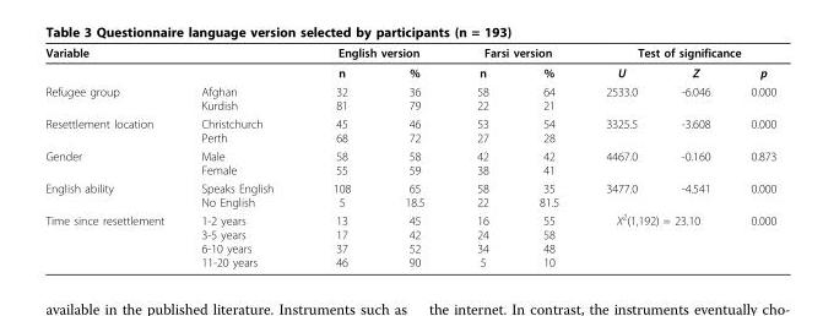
<table><thead><tr><td rowspan="2">Variable</td><td rowspan="2"></td><td colspan="2">English version</td><td colspan="2">Farsi version</td><td colspan="3">Test of significance</td></tr><tr><td>n</td><td>%</td><td>n</td><td>%</td><td>U</td><td>Z</td><td>p</td></tr></thead><tbody><tr><td>Refugee group</td><td>Afghan Kurdish</td><td>32 81</td><td>36 79</td><td>58 22</td><td>64 21</td><td>2533.0</td><td>-6.046</td><td>0.000</td></tr><tr><td>Resettlement location</td><td>Christchurch Perth</td><td>45 68</td><td>46 72</td><td>53 27</td><td>54 28</td><td>3325.5</td><td>-3.608</td><td>0.000</td></tr><tr><td>Gender</td><td>Male Female</td><td>58 55</td><td>58 59</td><td>42 38</td><td>42 41</td><td>4467.0</td><td>-0.160</td><td>0.873</td></tr><tr><td>English ability</td><td>Speaks English No English</td><td>108 5</td><td>65 18.5</td><td>58 22</td><td>35 81.5</td><td>3477.0</td><td>-4.541</td><td>0.000</td></tr><tr><td>Time since resettlement</td><td>1-2 years 3-5 years 6-10 years 11-20 years</td><td>13 17 37 46</td><td>45 42 52 90</td><td>16 24 34 5</td><td>55 58 48 10</td><td colspan="2">Χ<sup>2</sup>(1,192) = 23.10</td><td>0.000</td></tr></tbody></table>